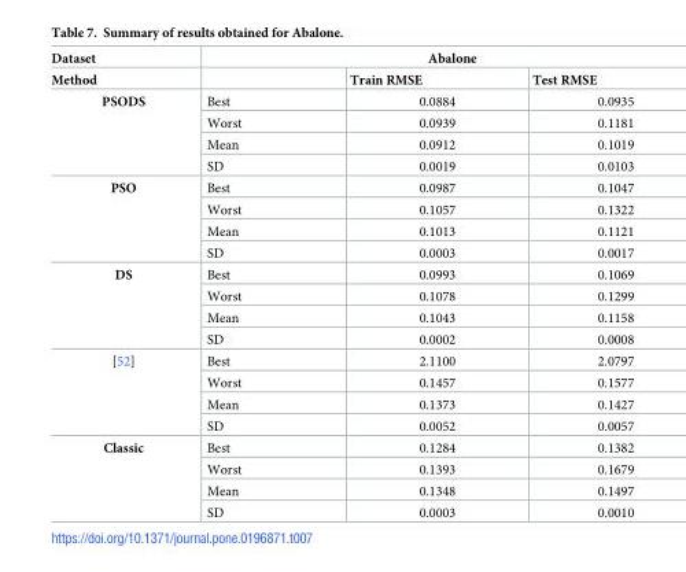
<table><thead><tr><td rowspan="2">Dataset Method</td><td colspan="3">Abalone</td></tr><tr><td></td><td>Train RMSE</td><td>Test RMSE</td></tr></thead><tbody><tr><td rowspan="4">PSODS</td><td>Best</td><td>0.0884</td><td>0.0935</td></tr><tr><td>Worst</td><td>0.0939</td><td>0.1181</td></tr><tr><td>Mean</td><td>0.0912</td><td>0.1019</td></tr><tr><td>SD</td><td>0.0019</td><td>0.0103</td></tr><tr><td rowspan="4">PSO</td><td>Best</td><td>0.0987</td><td>0.1047</td></tr><tr><td>Worst</td><td>0.1057</td><td>0.1322</td></tr><tr><td>Mean</td><td>0.1013</td><td>0.1121</td></tr><tr><td>SD</td><td>0.0003</td><td>0.0017</td></tr><tr><td rowspan="4">DS</td><td>Best</td><td>0.0993</td><td>0.1069</td></tr><tr><td>Worst</td><td>0.1078</td><td>0.1299</td></tr><tr><td>Mean</td><td>0.1043</td><td>0.1158</td></tr><tr><td>SD</td><td>0.0002</td><td>0.0008</td></tr><tr><td rowspan="4">[52]</td><td>Best</td><td>2.1100</td><td>2.0797</td></tr><tr><td>Worst</td><td>0.1457</td><td>0.1577</td></tr><tr><td>Mean</td><td>0.1373</td><td>0.1427</td></tr><tr><td>SD</td><td>0.0052</td><td>0.0057</td></tr><tr><td rowspan="4">Classic</td><td>Best</td><td>0.1284</td><td>0.1382</td></tr><tr><td>Worst</td><td>0.1393</td><td>0.1679</td></tr><tr><td>Mean</td><td>0.1348</td><td>0.1497</td></tr><tr><td>SD</td><td>0.0003</td><td>0.0010</td></tr></tbody></table>